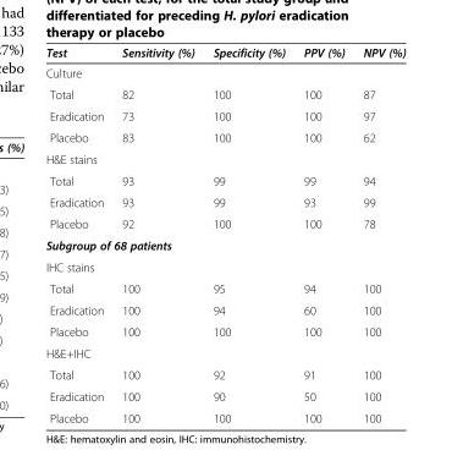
<table><thead><tr><td>Test</td><td>Sensitivity (%)</td><td>Specificity (%)</td><td>PPV (%)</td><td>NPV (%)</td></tr></thead><tbody><tr><td colspan="5">Culture</td></tr><tr><td>Total</td><td>82</td><td>100</td><td>100</td><td>87</td></tr><tr><td>Eradication</td><td>73</td><td>100</td><td>100</td><td>97</td></tr><tr><td>Placebo</td><td>83</td><td>100</td><td>100</td><td>62</td></tr><tr><td colspan="5">H&amp;E stains</td></tr><tr><td>Total</td><td>93</td><td>99</td><td>99</td><td>94</td></tr><tr><td>Eradication</td><td>93</td><td>99</td><td>93</td><td>99</td></tr><tr><td>Placebo</td><td>92</td><td>100</td><td>100</td><td>78</td></tr><tr><td colspan="5">Subgroup of 68 patients</td></tr><tr><td colspan="5">IHC stains</td></tr><tr><td>Total</td><td>100</td><td>95</td><td>94</td><td>100</td></tr><tr><td>Eradication</td><td>100</td><td>94</td><td>60</td><td>100</td></tr><tr><td>Placebo</td><td>100</td><td>100</td><td>100</td><td>100</td></tr><tr><td colspan="5">H&amp;E+IHC</td></tr><tr><td>Total</td><td>100</td><td>92</td><td>91</td><td>100</td></tr><tr><td>Eradication</td><td>100</td><td>90</td><td>50</td><td>100</td></tr><tr><td>Placebo</td><td>100</td><td>100</td><td>100</td><td>100</td></tr></tbody></table>